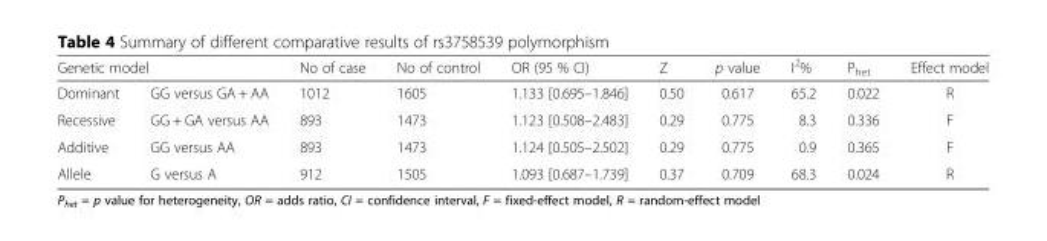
<table><thead><tr><td colspan="2">Genetic model</td><td rowspan="2">No of case 1012</td><td rowspan="2">No of control 1605</td><td rowspan="2">OR (95 % CI) 1.133 [0.695–1.846]</td><td rowspan="2">Z 0.50</td><td rowspan="2">p value 0.617</td><td rowspan="2">I<sup>2</sup>% 65.2</td><td rowspan="2">P<sub>het</sub> 0.022</td><td rowspan="2">Effect model R</td></tr><tr><td>Dominant</td><td>GG versus GA + AA</td></tr></thead><tbody><tr><td>Recessive</td><td>GG + GA versus AA</td><td>893</td><td>1473</td><td>1.123 [0.508–2.483]</td><td>0.29</td><td>0.775</td><td>8.3</td><td>0.336</td><td>F</td></tr><tr><td>Additive</td><td>GG versus AA</td><td>893</td><td>1473</td><td>1.124 [0.505–2.502]</td><td>0.29</td><td>0.775</td><td>0.9</td><td>0.365</td><td>F</td></tr><tr><td>Allele</td><td>G versus A</td><td>912</td><td>1505</td><td>1.093 [0.687–1.739]</td><td>0.37</td><td>0.709</td><td>68.3</td><td>0.024</td><td>R</td></tr></tbody></table>